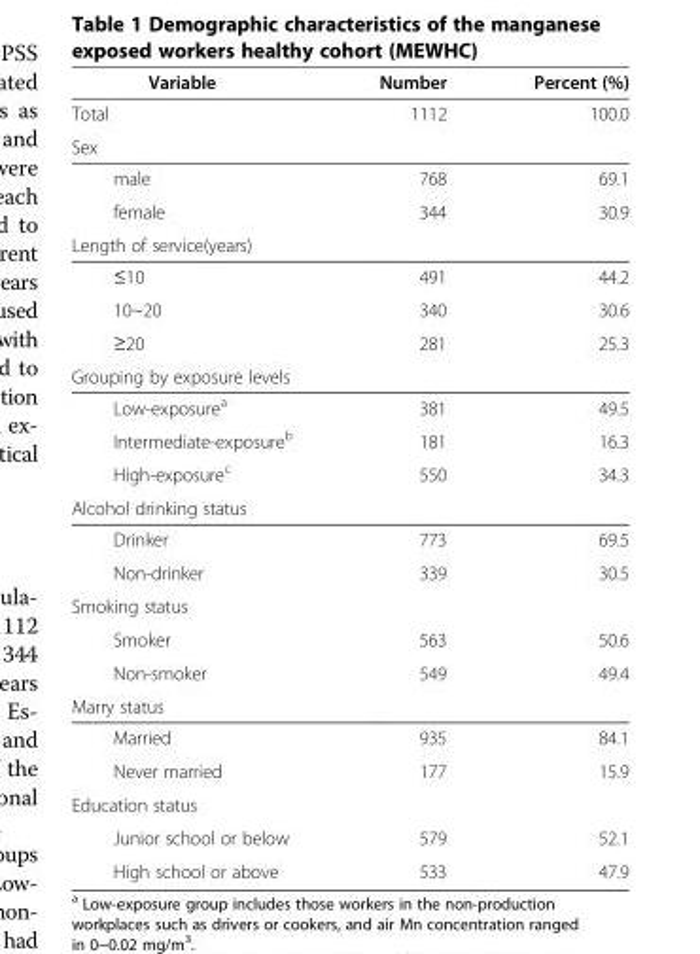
<table><thead><tr><td>Variable</td><td>Number</td><td>Percent (%)</td></tr></thead><tbody><tr><td>Total</td><td>1112</td><td>100.0</td></tr><tr><td colspan="3">Sex</td></tr><tr><td>male</td><td>768</td><td>69.1</td></tr><tr><td>female</td><td>344</td><td>30.9</td></tr><tr><td colspan="3">Length of service(years)</td></tr><tr><td>≤10</td><td>491</td><td>44.2</td></tr><tr><td>10~20</td><td>340</td><td>30.6</td></tr><tr><td>≥20</td><td>281</td><td>25.3</td></tr><tr><td colspan="3">Grouping by exposure levels</td></tr><tr><td>Low-exposure<sup>a</sup></td><td>381</td><td>49.5</td></tr><tr><td>Intermediate-exposure<sup>b</sup></td><td>181</td><td>16.3</td></tr><tr><td>High-exposure<sup>c</sup></td><td>550</td><td>34.3</td></tr><tr><td colspan="3">Alcohol drinking status</td></tr><tr><td>Drinker</td><td>773</td><td>69.5</td></tr><tr><td>Non-drinker</td><td>339</td><td>30.5</td></tr><tr><td colspan="3">Smoking status</td></tr><tr><td>Smoker</td><td>563</td><td>50.6</td></tr><tr><td>Non-smoker</td><td>549</td><td>49.4</td></tr><tr><td colspan="3">Marry status</td></tr><tr><td>Married</td><td>935</td><td>84.1</td></tr><tr><td>Never married</td><td>177</td><td>15.9</td></tr><tr><td colspan="3">Education status</td></tr><tr><td>Junior school or below</td><td>579</td><td>52.1</td></tr><tr><td>High school or above</td><td>533</td><td>47.9</td></tr></tbody></table>